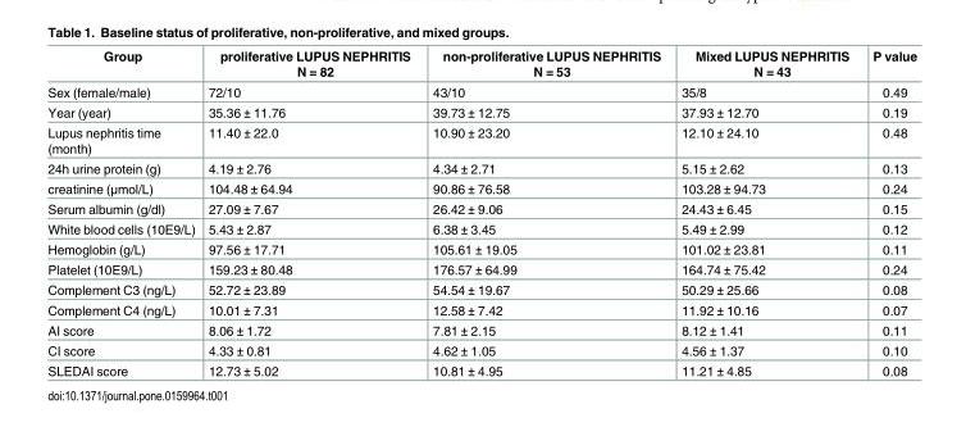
<table><thead><tr><td>Group</td><td>proliferative LUPUS NEPHRITIS N = 82</td><td>non-proliferative LUPUS NEPHRITIS N = 53</td><td>Mixed LUPUS NEPHRITIS N = 43</td><td>P value</td></tr></thead><tbody><tr><td>Sex (female/male)</td><td>72/10</td><td>43/10</td><td>35/8</td><td>0.49</td></tr><tr><td>Year (year)</td><td>35.36 ± 11.76</td><td>39.73 ± 12.75</td><td>37.93 ± 12.70</td><td>0.19</td></tr><tr><td>Lupus nephritis time (month)</td><td>11.40 ± 22.0</td><td>10.90 ± 23.20</td><td>12.10 ± 24.10</td><td>0.48</td></tr><tr><td>24h urine protein (g)</td><td>4.19 ± 2.76</td><td>4.34 ± 2.71</td><td>5.15 ± 2.62</td><td>0.13</td></tr><tr><td>creatinine (μmol/L)</td><td>104.48 ± 64.94</td><td>90.86 ± 76.58</td><td>103.28 ± 94.73</td><td>0.24</td></tr><tr><td>Serum albumin (g/dl)</td><td>27.09 ± 7.67</td><td>26.42 ± 9.06</td><td>24.43 ± 6.45</td><td>0.15</td></tr><tr><td>White blood cells (10E9/L)</td><td>5.43 ± 2.87</td><td>6.38 ± 3.45</td><td>5.49 ± 2.99</td><td>0.12</td></tr><tr><td>Hemoglobin (g/L)</td><td>97.56 ± 17.71</td><td>105.61 ± 19.05</td><td>101.02 ± 23.81</td><td>0.11</td></tr><tr><td>Platelet (10E9/L)</td><td>159.23 ± 80.48</td><td>176.57 ± 64.99</td><td>164.74 ± 75.42</td><td>0.24</td></tr><tr><td>Complement C3 (ng/L)</td><td>52.72 ± 23.89</td><td>54.54 ± 19.67</td><td>50.29 ± 25.66</td><td>0.08</td></tr><tr><td>Complement C4 (ng/L)</td><td>10.01 ± 7.31</td><td>12.58 ± 7.42</td><td>11.92 ± 10.16</td><td>0.07</td></tr><tr><td>AI score</td><td>8.06 ± 1.72</td><td>7.81 ± 2.15</td><td>8.12 ± 1.41</td><td>0.11</td></tr><tr><td>CI score</td><td>4.33 ± 0.81</td><td>4.62 ± 1.05</td><td>4.56 ± 1.37</td><td>0.10</td></tr><tr><td>SLEDAI score</td><td>12.73 ± 5.02</td><td>10.81 ± 4.95</td><td>11.21 ± 4.85</td><td>0.08</td></tr></tbody></table>